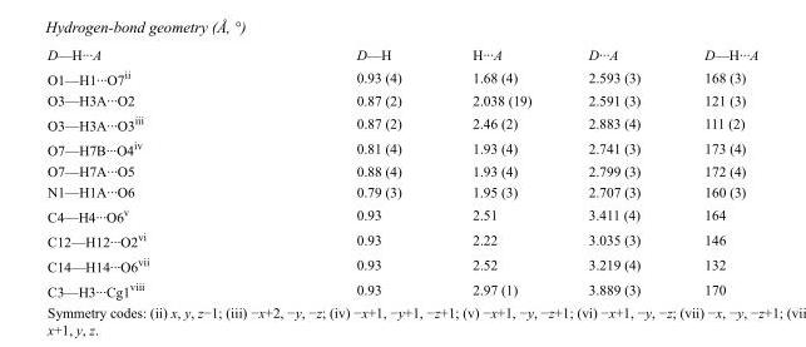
<table><tbody><tr><td>D—H···A</td><td>D—H</td><td>H···A</td><td>D···A</td><td>D—H···A</td></tr><tr><td>O1—H1···O7<sup>ii</sup></td><td>0.93 (4)</td><td>1.68 (4)</td><td>2.593 (3)</td><td>168 (3)</td></tr><tr><td>O3—H3A···O2</td><td>0.87 (2)</td><td>2.038 (19)</td><td>2.591 (3)</td><td>121 (3)</td></tr><tr><td>O3—H3A···O3<sup>iii</sup></td><td>0.87 (2)</td><td>2.46 (2)</td><td>2.883 (4)</td><td>111 (2)</td></tr><tr><td>O7—H7B···O4<sup>iv</sup></td><td>0.81 (4)</td><td>1.93 (4)</td><td>2.741 (3)</td><td>173 (4)</td></tr><tr><td>O7—H7A···O5</td><td>0.88 (4)</td><td>1.93 (4)</td><td>2.799 (3)</td><td>172 (4)</td></tr><tr><td>N1—H1A···O6</td><td>0.79 (3)</td><td>1.95 (3)</td><td>2.707 (3)</td><td>160 (3)</td></tr><tr><td>C4—H4···O6<sup>v</sup></td><td>0.93</td><td>2.51</td><td>3.411 (4)</td><td>164</td></tr><tr><td>C12—H12···O2<sup>vi</sup></td><td>0.93</td><td>2.22</td><td>3.035 (3)</td><td>146</td></tr><tr><td>C14—H14···O6<sup>vii</sup></td><td>0.93</td><td>2.52</td><td>3.219 (4)</td><td>132</td></tr><tr><td>C3—H3···Cg1<sup>viii</sup></td><td>0.93</td><td>2.97 (1)</td><td>3.889 (3)</td><td>170</td></tr></tbody></table>